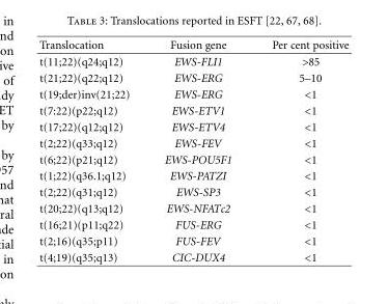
<table><thead><tr><td>Translocation</td><td>Fusion gene</td><td>Per cent positive</td></tr></thead><tbody><tr><td>t(11;22)(q24;q12)</td><td>EWS-FLI1</td><td>&gt;85</td></tr><tr><td>t(21;22)(q22;q12)</td><td>EWS-ERG</td><td>5–10</td></tr><tr><td>t(19;der)inv(21;22)</td><td>EWS-ERG</td><td>&lt;1</td></tr><tr><td>t(7:22)(p22;q12)</td><td>EWS-ETV1</td><td>&lt;1</td></tr><tr><td>t(17;22)(q12;q12)</td><td>EWS-ETV4</td><td>&lt;1</td></tr><tr><td>t(2;22)(q33;q12)</td><td>EWS-FEV</td><td>&lt;1</td></tr><tr><td>t(6;22)(p21;q12)</td><td>EWS-POU5F1</td><td>&lt;1</td></tr><tr><td>t(1;22)(q36.1;q12)</td><td>EWS-PATZI</td><td>&lt;1</td></tr><tr><td>t(2;22)(q31;q12)</td><td>EWS-SP3</td><td>&lt;1</td></tr><tr><td>t(20;22)(q13;q12)</td><td>EWS-NFATc2</td><td>&lt;1</td></tr><tr><td>t(16;21)(p11;q22)</td><td>FUS-ERG</td><td>&lt;1</td></tr><tr><td>t(2;16)(q35;p11)</td><td>FUS-FEV</td><td>&lt;1</td></tr><tr><td>t(4;19)(q35;q13)</td><td>CIC-DUX4</td><td>&lt;1</td></tr></tbody></table>